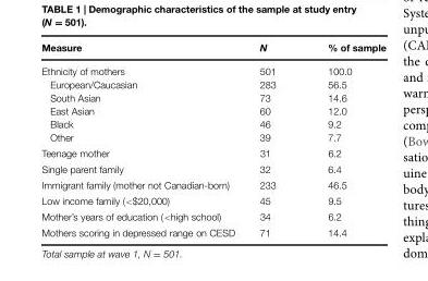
<table><thead><tr><td>Measure</td><td>N</td><td>% of sample</td></tr></thead><tbody><tr><td>Ethnicity of mothers European/Caucasian South Asian East Asian Black Other</td><td>501 283 73 60 46 39</td><td>100.0 56.5 14.6 12.0 9.2 7.7</td></tr><tr><td>Teenage mother</td><td>31</td><td>6.2</td></tr><tr><td>Single parent family</td><td>32</td><td>6.4</td></tr><tr><td>Immigrant family (mother not Canadian-born)</td><td>233</td><td>46.5</td></tr><tr><td>Low income family (&lt;$20,000)</td><td>45</td><td>9.5</td></tr><tr><td>Mother’s years of education (&lt;high school)</td><td>34</td><td>6.2</td></tr><tr><td>Mothers scoring in depressed range on CESD</td><td>71</td><td>14.4</td></tr></tbody></table>